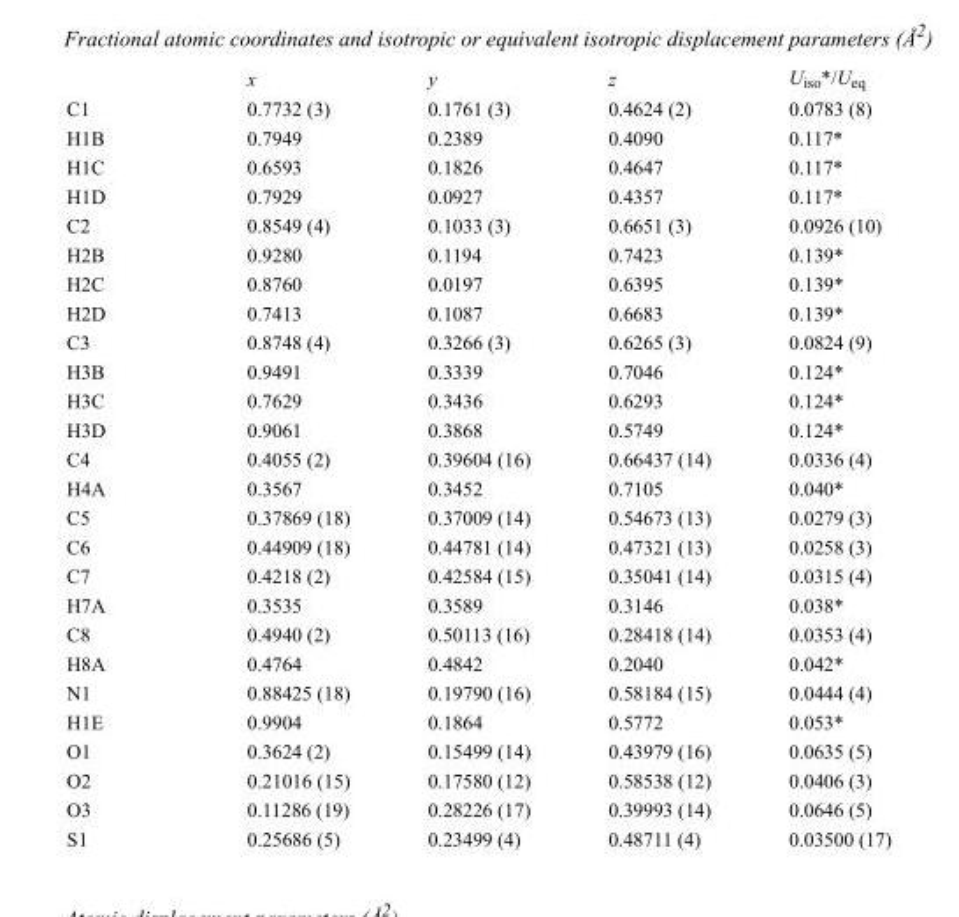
<table><thead><tr><td></td><td>x</td><td>y</td><td>z</td><td>U<sub>iso</sub>*/U<sub>eq</sub></td></tr></thead><tbody><tr><td>C1</td><td>0.7732 (3)</td><td>0.1761 (3)</td><td>0.4624 (2)</td><td>0.0783 (8)</td></tr><tr><td>H1B</td><td>0.7949</td><td>0.2389</td><td>0.4090</td><td>0.117*</td></tr><tr><td>H1C</td><td>0.6593</td><td>0.1826</td><td>0.4647</td><td>0.117*</td></tr><tr><td>H1D</td><td>0.7929</td><td>0.0927</td><td>0.4357</td><td>0.117*</td></tr><tr><td>C2</td><td>0.8549 (4)</td><td>0.1033 (3)</td><td>0.6651 (3)</td><td>0.0926 (10)</td></tr><tr><td>H2B</td><td>0.9280</td><td>0.1194</td><td>0.7423</td><td>0.139*</td></tr><tr><td>H2C</td><td>0.8760</td><td>0.0197</td><td>0.6395</td><td>0.139*</td></tr><tr><td>H2D</td><td>0.7413</td><td>0.1087</td><td>0.6683</td><td>0.139*</td></tr><tr><td>C3</td><td>0.8748 (4)</td><td>0.3266 (3)</td><td>0.6265 (3)</td><td>0.0824 (9)</td></tr><tr><td>H3B</td><td>0.9491</td><td>0.3339</td><td>0.7046</td><td>0.124*</td></tr><tr><td>H3C</td><td>0.7629</td><td>0.3436</td><td>0.6293</td><td>0.124*</td></tr><tr><td>H3D</td><td>0.9061</td><td>0.3868</td><td>0.5749</td><td>0.124*</td></tr><tr><td>C4</td><td>0.4055 (2)</td><td>0.39604 (16)</td><td>0.66437 (14)</td><td>0.0336 (4)</td></tr><tr><td>H4A</td><td>0.3567</td><td>0.3452</td><td>0.7105</td><td>0.040*</td></tr><tr><td>C5</td><td>0.37869 (18)</td><td>0.37009 (14)</td><td>0.54673 (13)</td><td>0.0279 (3)</td></tr><tr><td>C6</td><td>0.44909 (18)</td><td>0.44781 (14)</td><td>0.47321 (13)</td><td>0.0258 (3)</td></tr><tr><td>C7</td><td>0.4218 (2)</td><td>0.42584 (15)</td><td>0.35041 (14)</td><td>0.0315 (4)</td></tr><tr><td>H7A</td><td>0.3535</td><td>0.3589</td><td>0.3146</td><td>0.038*</td></tr><tr><td>C8</td><td>0.4940 (2)</td><td>0.50113 (16)</td><td>0.28418 (14)</td><td>0.0353 (4)</td></tr><tr><td>H8A</td><td>0.4764</td><td>0.4842</td><td>0.2040</td><td>0.042*</td></tr><tr><td>N1</td><td>0.88425 (18)</td><td>0.19790 (16)</td><td>0.58184 (15)</td><td>0.0444 (4)</td></tr><tr><td>H1E</td><td>0.9904</td><td>0.1864</td><td>0.5772</td><td>0.053*</td></tr><tr><td>O1</td><td>0.3624 (2)</td><td>0.15499 (14)</td><td>0.43979 (16)</td><td>0.0635 (5)</td></tr><tr><td>O2</td><td>0.21016 (15)</td><td>0.17580 (12)</td><td>0.58538 (12)</td><td>0.0406 (3)</td></tr><tr><td>O3</td><td>0.11286 (19)</td><td>0.28226 (17)</td><td>0.39993 (14)</td><td>0.0646 (5)</td></tr><tr><td>S1</td><td>0.25686 (5)</td><td>0.23499 (4)</td><td>0.48711 (4)</td><td>0.03500 (17)</td></tr></tbody></table>